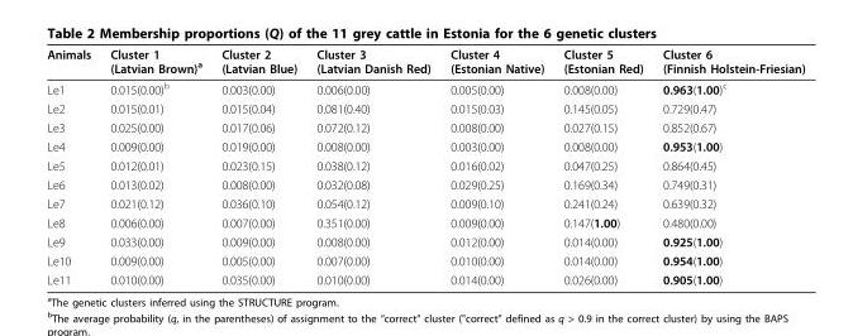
<table><thead><tr><td>Animals</td><td>Cluster 1 (Latvian Brown)<sup>a</sup></td><td>Cluster 2 (Latvian Blue)</td><td>Cluster 3 (Latvian Danish Red)</td><td>Cluster 4 (Estonian Native)</td><td>Cluster 5 (Estonian Red)</td><td>Cluster 6 (Finnish Holstein-Friesian)</td></tr></thead><tbody><tr><td>Le1</td><td>0.015(0.00)<sup>b</sup></td><td>0.003(0.00)</td><td>0.006(0.00)</td><td>0.005(0.00)</td><td>0.008(0.00)</td><td>0.963(1.00)<sup>c</sup></td></tr><tr><td>Le2</td><td>0.015(0.01)</td><td>0.015(0.04)</td><td>0.081(0.40)</td><td>0.015(0.03)</td><td>0.145(0.05)</td><td>0.729(0.47)</td></tr><tr><td>Le3</td><td>0.025(0.00)</td><td>0.017(0.06)</td><td>0.072(0.12)</td><td>0.008(0.00)</td><td>0.027(0.15)</td><td>0.852(0.67)</td></tr><tr><td>Le4</td><td>0.009(0.00)</td><td>0.019(0.00)</td><td>0.008(0.00)</td><td>0.003(0.00)</td><td>0.008(0.00)</td><td>0.953(1.00)</td></tr><tr><td>Le5</td><td>0.012(0.01)</td><td>0.023(0.15)</td><td>0.038(0.12)</td><td>0.016(0.02)</td><td>0.047(0.25)</td><td>0.864(0.45)</td></tr><tr><td>Le6</td><td>0.013(0.02)</td><td>0.008(0.00)</td><td>0.032(0.08)</td><td>0.029(0.25)</td><td>0.169(0.34)</td><td>0.749(0.31)</td></tr><tr><td>Le7</td><td>0.021(0.12)</td><td>0.036(0.10)</td><td>0.054(0.12)</td><td>0.009(0.10)</td><td>0.241(0.24)</td><td>0.639(0.32)</td></tr><tr><td>Le8</td><td>0.006(0.00)</td><td>0.007(0.00)</td><td>0.351(0.00)</td><td>0.009(0.00)</td><td>0.147(1.00)</td><td>0.480(0.00)</td></tr><tr><td>Le9</td><td>0.033(0.00)</td><td>0.009(0.00)</td><td>0.008(0.00)</td><td>0.012(0.00)</td><td>0.014(0.00)</td><td>0.925(1.00)</td></tr><tr><td>Le10</td><td>0.009(0.00)</td><td>0.005(0.00)</td><td>0.007(0.00)</td><td>0.010(0.00)</td><td>0.014(0.00)</td><td>0.954(1.00)</td></tr><tr><td>Le11</td><td>0.010(0.00)</td><td>0.035(0.00)</td><td>0.010(0.00)</td><td>0.014(0.00)</td><td>0.026(0.00)</td><td>0.905(1.00)</td></tr></tbody></table>